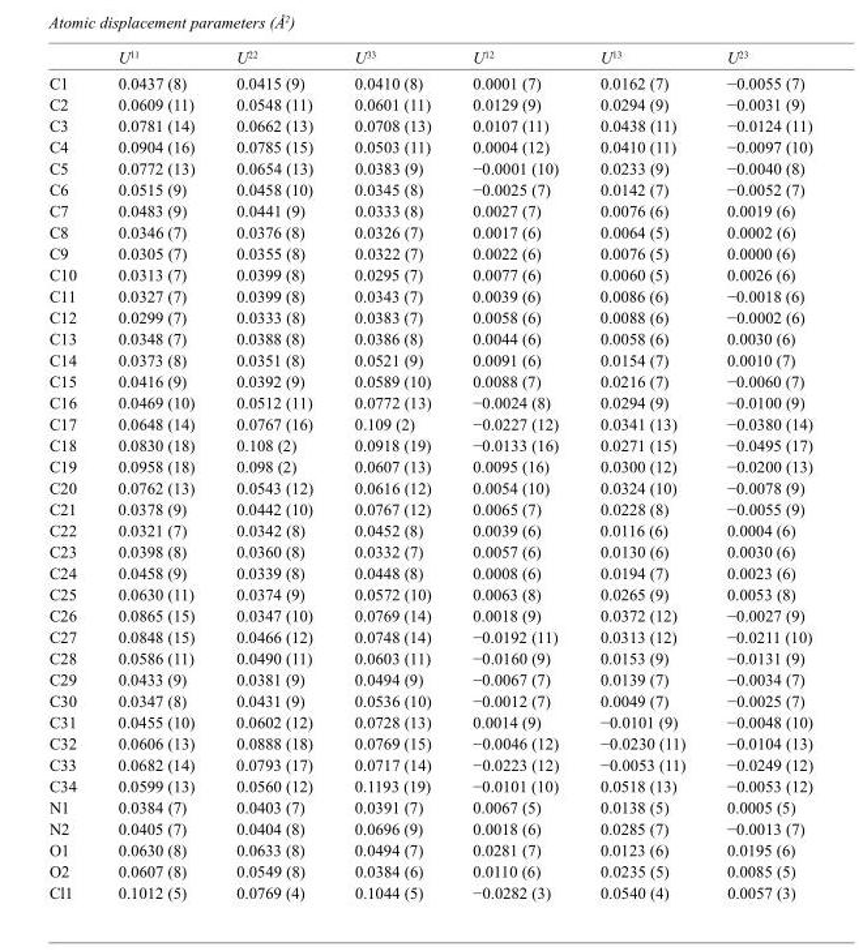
<table><thead><tr><td></td><td>U<sup>11</sup></td><td>U<sup>22</sup></td><td>U<sup>33</sup></td><td>U<sup>12</sup></td><td>U<sup>13</sup></td><td>U<sup>23</sup></td></tr></thead><tbody><tr><td>C1</td><td>0.0437 (8)</td><td>0.0415 (9)</td><td>0.0410 (8)</td><td>0.0001 (7)</td><td>0.0162 (7)</td><td>−0.0055 (7)</td></tr><tr><td>C2</td><td>0.0609 (11)</td><td>0.0548 (11)</td><td>0.0601 (11)</td><td>0.0129 (9)</td><td>0.0294 (9)</td><td>−0.0031 (9)</td></tr><tr><td>C3</td><td>0.0781 (14)</td><td>0.0662 (13)</td><td>0.0708 (13)</td><td>0.0107 (11)</td><td>0.0438 (11)</td><td>−0.0124 (11)</td></tr><tr><td>C4</td><td>0.0904 (16)</td><td>0.0785 (15)</td><td>0.0503 (11)</td><td>0.0004 (12)</td><td>0.0410 (11)</td><td>−0.0097 (10)</td></tr><tr><td>C5</td><td>0.0772 (13)</td><td>0.0654 (13)</td><td>0.0383 (9)</td><td>−0.0001 (10)</td><td>0.0233 (9)</td><td>−0.0040 (8)</td></tr><tr><td>C6</td><td>0.0515 (9)</td><td>0.0458 (10)</td><td>0.0345 (8)</td><td>−0.0025 (7)</td><td>0.0142 (7)</td><td>−0.0052 (7)</td></tr><tr><td>C7</td><td>0.0483 (9)</td><td>0.0441 (9)</td><td>0.0333 (8)</td><td>0.0027 (7)</td><td>0.0076 (6)</td><td>0.0019 (6)</td></tr><tr><td>C8</td><td>0.0346 (7)</td><td>0.0376 (8)</td><td>0.0326 (7)</td><td>0.0017 (6)</td><td>0.0064 (5)</td><td>0.0002 (6)</td></tr><tr><td>C9</td><td>0.0305 (7)</td><td>0.0355 (8)</td><td>0.0322 (7)</td><td>0.0022 (6)</td><td>0.0076 (5)</td><td>0.0000 (6)</td></tr><tr><td>C10</td><td>0.0313 (7)</td><td>0.0399 (8)</td><td>0.0295 (7)</td><td>0.0077 (6)</td><td>0.0060 (5)</td><td>0.0026 (6)</td></tr><tr><td>C11</td><td>0.0327 (7)</td><td>0.0399 (8)</td><td>0.0343 (7)</td><td>0.0039 (6)</td><td>0.0086 (6)</td><td>−0.0018 (6)</td></tr><tr><td>C12</td><td>0.0299 (7)</td><td>0.0333 (8)</td><td>0.0383 (7)</td><td>0.0058 (6)</td><td>0.0088 (6)</td><td>−0.0002 (6)</td></tr><tr><td>C13</td><td>0.0348 (7)</td><td>0.0388 (8)</td><td>0.0386 (8)</td><td>0.0044 (6)</td><td>0.0058 (6)</td><td>0.0030 (6)</td></tr><tr><td>C14</td><td>0.0373 (8)</td><td>0.0351 (8)</td><td>0.0521 (9)</td><td>0.0091 (6)</td><td>0.0154 (7)</td><td>0.0010 (7)</td></tr><tr><td>C15</td><td>0.0416 (9)</td><td>0.0392 (9)</td><td>0.0589 (10)</td><td>0.0088 (7)</td><td>0.0216 (7)</td><td>−0.0060 (7)</td></tr><tr><td>C16</td><td>0.0469 (10)</td><td>0.0512 (11)</td><td>0.0772 (13)</td><td>−0.0024 (8)</td><td>0.0294 (9)</td><td>−0.0100 (9)</td></tr><tr><td>C17</td><td>0.0648 (14)</td><td>0.0767 (16)</td><td>0.109 (2)</td><td>−0.0227 (12)</td><td>0.0341 (13)</td><td>−0.0380 (14)</td></tr><tr><td>C18</td><td>0.0830 (18)</td><td>0.108 (2)</td><td>0.0918 (19)</td><td>−0.0133 (16)</td><td>0.0271 (15)</td><td>−0.0495 (17)</td></tr><tr><td>C19</td><td>0.0958 (18)</td><td>0.098 (2)</td><td>0.0607 (13)</td><td>0.0095 (16)</td><td>0.0300 (12)</td><td>−0.0200 (13)</td></tr><tr><td>C20</td><td>0.0762 (13)</td><td>0.0543 (12)</td><td>0.0616 (12)</td><td>0.0054 (10)</td><td>0.0324 (10)</td><td>−0.0078 (9)</td></tr><tr><td>C21</td><td>0.0378 (9)</td><td>0.0442 (10)</td><td>0.0767 (12)</td><td>0.0065 (7)</td><td>0.0228 (8)</td><td>−0.0055 (9)</td></tr><tr><td>C22</td><td>0.0321 (7)</td><td>0.0342 (8)</td><td>0.0452 (8)</td><td>0.0039 (6)</td><td>0.0116 (6)</td><td>0.0004 (6)</td></tr><tr><td>C23</td><td>0.0398 (8)</td><td>0.0360 (8)</td><td>0.0332 (7)</td><td>0.0057 (6)</td><td>0.0130 (6)</td><td>0.0030 (6)</td></tr><tr><td>C24</td><td>0.0458 (9)</td><td>0.0339 (8)</td><td>0.0448 (8)</td><td>0.0008 (6)</td><td>0.0194 (7)</td><td>0.0023 (6)</td></tr><tr><td>C25</td><td>0.0630 (11)</td><td>0.0374 (9)</td><td>0.0572 (10)</td><td>0.0063 (8)</td><td>0.0265 (9)</td><td>0.0053 (8)</td></tr><tr><td>C26</td><td>0.0865 (15)</td><td>0.0347 (10)</td><td>0.0769 (14)</td><td>0.0018 (9)</td><td>0.0372 (12)</td><td>−0.0027 (9)</td></tr><tr><td>C27</td><td>0.0848 (15)</td><td>0.0466 (12)</td><td>0.0748 (14)</td><td>−0.0192 (11)</td><td>0.0313 (12)</td><td>−0.0211 (10)</td></tr><tr><td>C28</td><td>0.0586 (11)</td><td>0.0490 (11)</td><td>0.0603 (11)</td><td>−0.0160 (9)</td><td>0.0153 (9)</td><td>−0.0131 (9)</td></tr><tr><td>C29</td><td>0.0433 (9)</td><td>0.0381 (9)</td><td>0.0494 (9)</td><td>−0.0067 (7)</td><td>0.0139 (7)</td><td>−0.0034 (7)</td></tr><tr><td>C30</td><td>0.0347 (8)</td><td>0.0431 (9)</td><td>0.0536 (10)</td><td>−0.0012 (7)</td><td>0.0049 (7)</td><td>−0.0025 (7)</td></tr><tr><td>C31</td><td>0.0455 (10)</td><td>0.0602 (12)</td><td>0.0728 (13)</td><td>0.0014 (9)</td><td>−0.0101 (9)</td><td>−0.0048 (10)</td></tr><tr><td>C32</td><td>0.0606 (13)</td><td>0.0888 (18)</td><td>0.0769 (15)</td><td>−0.0046 (12)</td><td>−0.0230 (11)</td><td>−0.0104 (13)</td></tr><tr><td>C33</td><td>0.0682 (14)</td><td>0.0793 (17)</td><td>0.0717 (14)</td><td>−0.0223 (12)</td><td>−0.0053 (11)</td><td>−0.0249 (12)</td></tr><tr><td>C34</td><td>0.0599 (13)</td><td>0.0560 (12)</td><td>0.1193 (19)</td><td>−0.0101 (10)</td><td>0.0518 (13)</td><td>−0.0053 (12)</td></tr><tr><td>N1</td><td>0.0384 (7)</td><td>0.0403 (7)</td><td>0.0391 (7)</td><td>0.0067 (5)</td><td>0.0138 (5)</td><td>0.0005 (5)</td></tr><tr><td>N2</td><td>0.0405 (7)</td><td>0.0404 (8)</td><td>0.0696 (9)</td><td>0.0018 (6)</td><td>0.0285 (7)</td><td>−0.0013 (7)</td></tr><tr><td>O1</td><td>0.0630 (8)</td><td>0.0633 (8)</td><td>0.0494 (7)</td><td>0.0281 (7)</td><td>0.0123 (6)</td><td>0.0195 (6)</td></tr><tr><td>O2</td><td>0.0607 (8)</td><td>0.0549 (8)</td><td>0.0384 (6)</td><td>0.0110 (6)</td><td>0.0235 (5)</td><td>0.0085 (5)</td></tr><tr><td>Cl1</td><td>0.1012 (5)</td><td>0.0769 (4)</td><td>0.1044 (5)</td><td>−0.0282 (3)</td><td>0.0540 (4)</td><td>0.0057 (3)</td></tr></tbody></table>